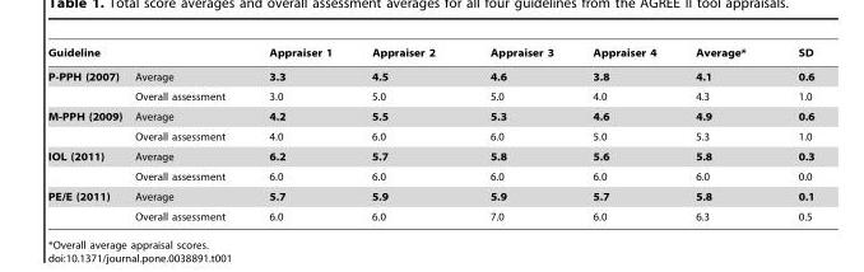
<table><thead><tr><td>Guideline</td><td></td><td>Appraiser 1</td><td>Appraiser 2</td><td>Appraiser 3</td><td>Appraiser 4</td><td>Average*</td><td>SD</td></tr></thead><tbody><tr><td rowspan="2">P-PPH (2007)</td><td>Average</td><td>3.3</td><td>4.5</td><td>4.6</td><td>3.8</td><td>4.1</td><td>0.6</td></tr><tr><td>Overall assessment</td><td>3.0</td><td>5.0</td><td>5.0</td><td>4.0</td><td>4.3</td><td>1.0</td></tr><tr><td rowspan="2">M-PPH (2009)</td><td>Average</td><td>4.2</td><td>5.5</td><td>5.3</td><td>4.6</td><td>4.9</td><td>0.6</td></tr><tr><td>Overall assessment</td><td>4.0</td><td>6.0</td><td>6.0</td><td>5.0</td><td>5.3</td><td>1.0</td></tr><tr><td rowspan="2">IOL (2011)</td><td>Average</td><td>6.2</td><td>5.7</td><td>5.8</td><td>5.6</td><td>5.8</td><td>0.3</td></tr><tr><td>Overall assessment</td><td>6.0</td><td>6.0</td><td>6.0</td><td>6.0</td><td>6.0</td><td>0.0</td></tr><tr><td rowspan="2">PE/E (2011)</td><td>Average</td><td>5.7</td><td>5.9</td><td>5.9</td><td>5.7</td><td>5.8</td><td>0.1</td></tr><tr><td>Overall assessment</td><td>6.0</td><td>6.0</td><td>7.0</td><td>6.0</td><td>6.3</td><td>0.5</td></tr></tbody></table>